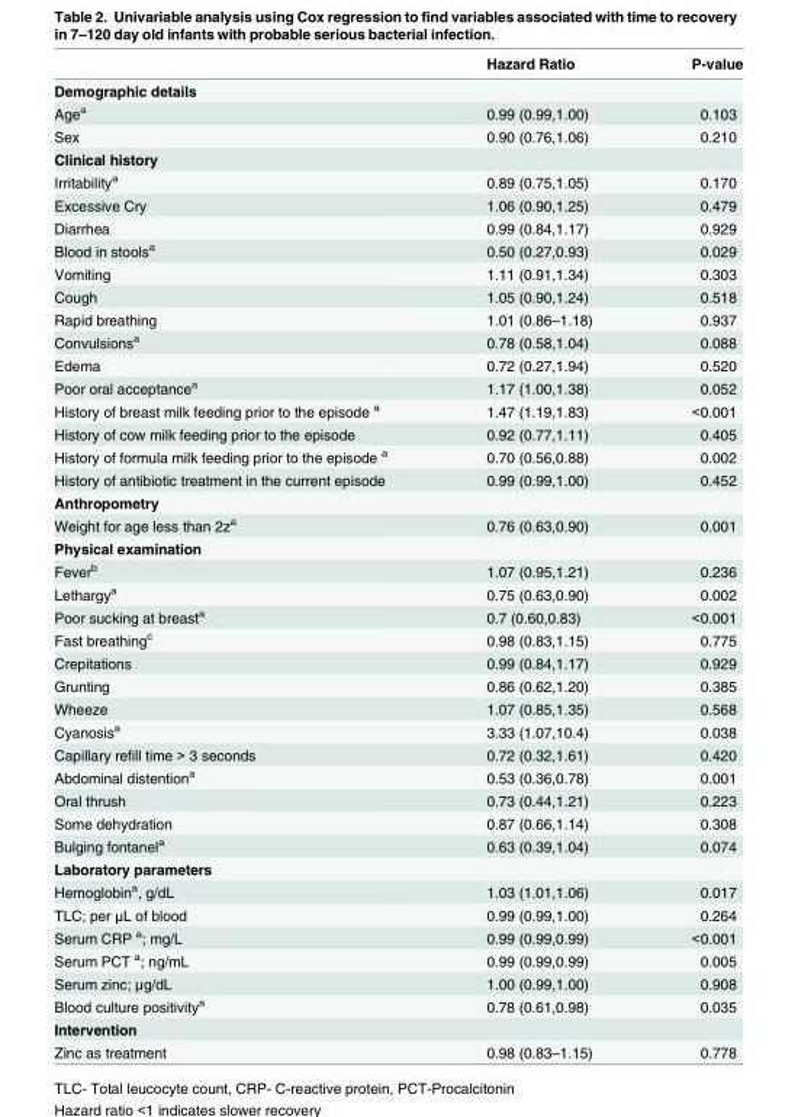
<table><thead><tr><td></td><td>Hazard Ratio</td><td>P-value</td></tr></thead><tbody><tr><td colspan="3">Demographic details</td></tr><tr><td>Age<sup>a</sup></td><td>0.99 (0.99,1.00)</td><td>0.103</td></tr><tr><td>Sex</td><td>0.90 (0.76,1.06)</td><td>0.210</td></tr><tr><td colspan="3">Clinical history</td></tr><tr><td>Irritability<sup>a</sup></td><td>0.89 (0.75,1.05)</td><td>0.170</td></tr><tr><td>Excessive Cry</td><td>1.06 (0.90,1.25)</td><td>0.479</td></tr><tr><td>Diarrhea</td><td>0.99 (0.84,1.17)</td><td>0.929</td></tr><tr><td>Blood in stools<sup>a</sup></td><td>0.50 (0.27,0.93)</td><td>0.029</td></tr><tr><td>Vomiting</td><td>1.11 (0.91,1.34)</td><td>0.303</td></tr><tr><td>Cough</td><td>1.05 (0.90,1.24)</td><td>0.518</td></tr><tr><td>Rapid breathing</td><td>1.01 (0.86–1.18)</td><td>0.937</td></tr><tr><td>Convulsions<sup>a</sup></td><td>0.78 (0.58,1.04)</td><td>0.088</td></tr><tr><td>Edema</td><td>0.72 (0.27,1.94)</td><td>0.520</td></tr><tr><td>Poor oral acceptance<sup>a</sup></td><td>1.17 (1.00,1.38)</td><td>0.052</td></tr><tr><td>History of breast milk feeding prior to the episode <sup>a</sup></td><td>1.47 (1.19,1.83)</td><td>&lt;0.001</td></tr><tr><td>History of cow milk feeding prior to the episode</td><td>0.92 (0.77,1.11)</td><td>0.405</td></tr><tr><td>History of formula milk feeding prior to the episode <sup>a</sup></td><td>0.70 (0.56,0.88)</td><td>0.002</td></tr><tr><td>History of antibiotic treatment in the current episode</td><td>0.99 (0.99,1.00)</td><td>0.452</td></tr><tr><td colspan="3">Anthropometry</td></tr><tr><td>Weight for age less than 2z<sup>a</sup></td><td>0.76 (0.63,0.90)</td><td>0.001</td></tr><tr><td colspan="3">Physical examination</td></tr><tr><td>Fever<sup>b</sup></td><td>1.07 (0.95,1.21)</td><td>0.236</td></tr><tr><td>Lethargy<sup>a</sup></td><td>0.75 (0.63,0.90)</td><td>0.002</td></tr><tr><td>Poor sucking at breast<sup>a</sup></td><td>0.7 (0.60,0.83)</td><td>&lt;0.001</td></tr><tr><td>Fast breathing<sup>c</sup></td><td>0.98 (0.83,1.15)</td><td>0.775</td></tr><tr><td>Crepitations</td><td>0.99 (0.84,1.17)</td><td>0.929</td></tr><tr><td>Grunting</td><td>0.86 (0.62,1.20)</td><td>0.385</td></tr><tr><td>Wheeze</td><td>1.07 (0.85,1.35)</td><td>0.568</td></tr><tr><td>Cyanosis<sup>a</sup></td><td>3.33 (1.07,10.4)</td><td>0.038</td></tr><tr><td>Capillary refill time &gt; 3 seconds</td><td>0.72 (0.32,1.61)</td><td>0.420</td></tr><tr><td>Abdominal distention<sup>a</sup></td><td>0.53 (0.36,0.78)</td><td>0.001</td></tr><tr><td>Oral thrush</td><td>0.73 (0.44,1.21)</td><td>0.223</td></tr><tr><td>Some dehydration</td><td>0.87 (0.66,1.14)</td><td>0.308</td></tr><tr><td>Bulging fontanel<sup>a</sup></td><td>0.63 (0.39,1.04)</td><td>0.074</td></tr><tr><td colspan="3">Laboratory parameters</td></tr><tr><td>Hemoglobin<sup>a</sup>, g/dL</td><td>1.03 (1.01,1.06)</td><td>0.017</td></tr><tr><td>TLC; per μL of blood</td><td>0.99 (0.99,1.00)</td><td>0.264</td></tr><tr><td>Serum CRP <sup>a</sup>; mg/L</td><td>0.99 (0.99,0.99)</td><td>&lt;0.001</td></tr><tr><td>Serum PCT <sup>a</sup>; ng/mL</td><td>0.99 (0.99,0.99)</td><td>0.005</td></tr><tr><td>Serum zinc; μg/dL</td><td>1.00 (0.99,1.00)</td><td>0.908</td></tr><tr><td>Blood culture positivity<sup>a</sup></td><td>0.78 (0.61,0.98)</td><td>0.035</td></tr><tr><td colspan="3">Intervention</td></tr><tr><td>Zinc as treatment</td><td>0.98 (0.83–1.15)</td><td>0.778</td></tr></tbody></table>